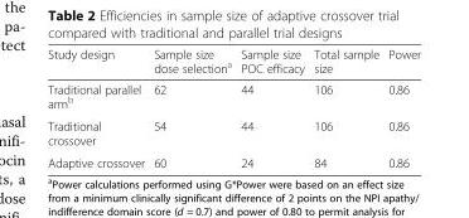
<table><thead><tr><td>Study design</td><td>Sample size dose selection<sup>a</sup></td><td>Sample size POC efficacy</td><td>Total sample size</td><td>Power</td></tr></thead><tbody><tr><td>Traditional parallel arm<sup>b</sup></td><td>62</td><td>44</td><td>106</td><td>0.86</td></tr><tr><td>Traditional crossover</td><td>54</td><td>44</td><td>106</td><td>0.86</td></tr><tr><td>Adaptive crossover</td><td>60</td><td>24</td><td>84</td><td>0.86</td></tr></tbody></table>